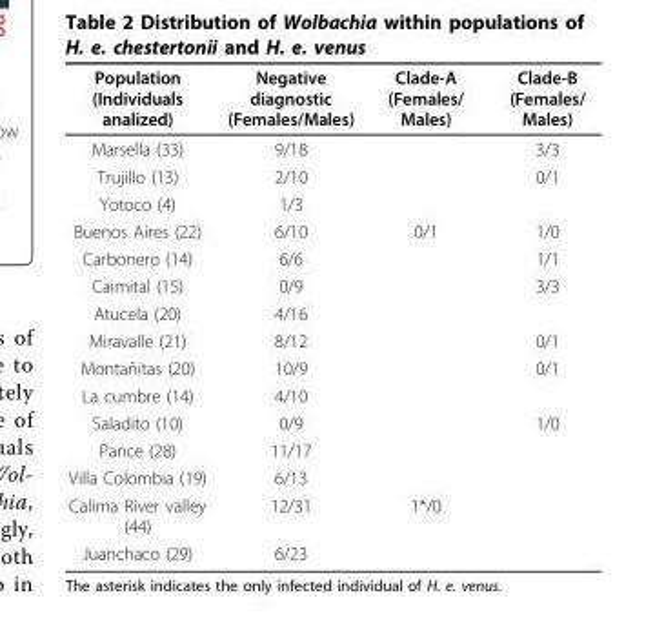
<table><thead><tr><td>Population (Individuals analized)</td><td>Negative diagnostic (Females/Males)</td><td>Clade-A (Females/ Males)</td><td>Clade-B (Females/ Males)</td></tr></thead><tbody><tr><td>Marsella (33)</td><td>9/18</td><td></td><td>3/3</td></tr><tr><td>Trujillo (13)</td><td>2/10</td><td></td><td>0/1</td></tr><tr><td>Yotoco (4)</td><td>1/3</td><td></td><td></td></tr><tr><td>Buenos Aires (22)</td><td>6/10</td><td>0/1</td><td>1/0</td></tr><tr><td>Carbonero (14)</td><td>6/6</td><td></td><td>1/1</td></tr><tr><td>Caimital (15)</td><td>0/9</td><td></td><td>3/3</td></tr><tr><td>Atucela (20)</td><td>4/16</td><td></td><td></td></tr><tr><td>Miravalle (21)</td><td>8/12</td><td></td><td>0/1</td></tr><tr><td>Montañitas (20)</td><td>10/9</td><td></td><td>0/1</td></tr><tr><td>La cumbre (14)</td><td>4/10</td><td></td><td></td></tr><tr><td>Saladito (10)</td><td>0/9</td><td></td><td>1/0</td></tr><tr><td>Pance (28)</td><td>11/17</td><td></td><td></td></tr><tr><td>Villa Colombia (19)</td><td>6/13</td><td></td><td></td></tr><tr><td>Calima River valley (44)</td><td>12/31</td><td>1*/0</td><td></td></tr><tr><td>Juanchaco (29)</td><td>6/23</td><td></td><td></td></tr></tbody></table>